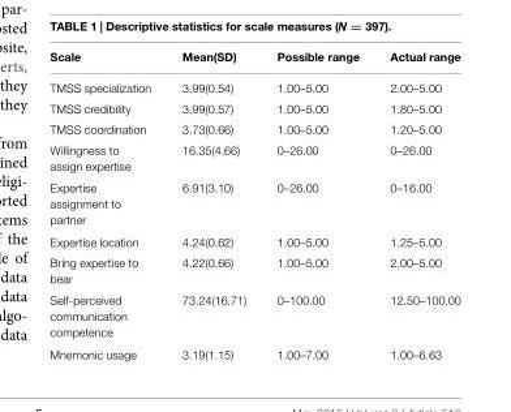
<table><thead><tr><td>Scale</td><td>Mean(SD)</td><td>Possible range</td><td>Actual range</td></tr></thead><tbody><tr><td>TMSS specialization</td><td>3.99(0.54)</td><td>1.00–5.00</td><td>2.00–5.00</td></tr><tr><td>TMSS credibility</td><td>3.99(0.57)</td><td>1.00–5.00</td><td>1.80–5.00</td></tr><tr><td>TMSS coordination</td><td>3.73(0.66)</td><td>1.00–5.00</td><td>1.20–5.00</td></tr><tr><td>Willingness to assign expertise</td><td>16.35(4.66)</td><td>0–26.00</td><td>0–26.00</td></tr><tr><td>Expertise assignment to partner</td><td>6.91(3.10)</td><td>0–26.00</td><td>0–16.00</td></tr><tr><td>Expertise location</td><td>4.24(0.62)</td><td>1.00–5.00</td><td>1.25–5.00</td></tr><tr><td>Bring expertise to bear</td><td>4.22(0.66)</td><td>1.00–5.00</td><td>2.00–5.00</td></tr><tr><td>Self-perceived communication competence</td><td>73.24(16.71)</td><td>0–100.00</td><td>12.50–100.00</td></tr><tr><td>Mnemonic usage</td><td>3.19(1.15)</td><td>1.00–7.00</td><td>1.00–6.63</td></tr></tbody></table>